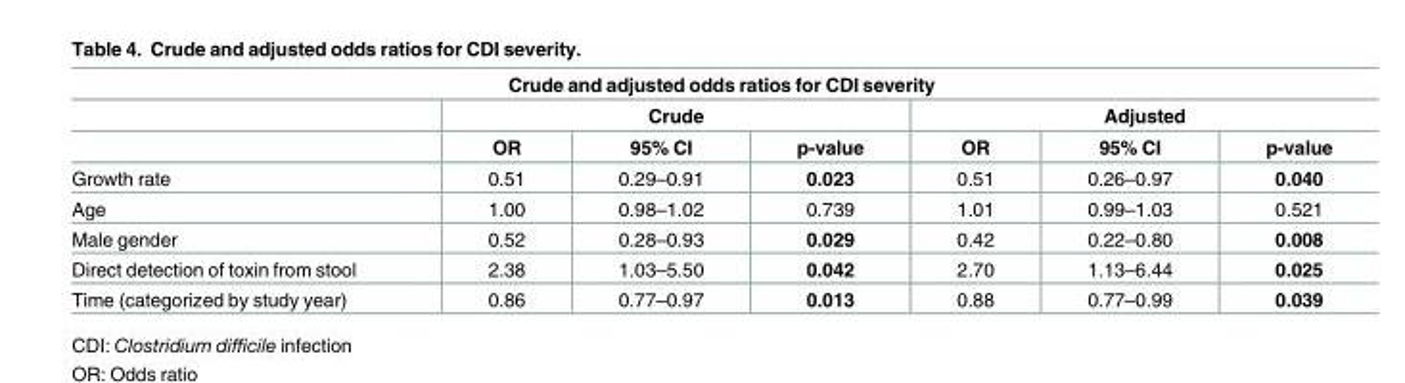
<table><thead><tr><td colspan="7">Crude and adjusted odds ratios for CDI severity</td></tr><tr><td rowspan="2"></td><td colspan="3">Crude</td><td colspan="3">Adjusted</td></tr><tr><td>OR</td><td>95% CI</td><td>p-value</td><td>OR</td><td>95% CI</td><td>p-value</td></tr></thead><tbody><tr><td>Growth rate</td><td>0.51</td><td>0.29–0.91</td><td>0.023</td><td>0.51</td><td>0.26–0.97</td><td>0.040</td></tr><tr><td>Age</td><td>1.00</td><td>0.98–1.02</td><td>0.739</td><td>1.01</td><td>0.99–1.03</td><td>0.521</td></tr><tr><td>Male gender</td><td>0.52</td><td>0.28–0.93</td><td>0.029</td><td>0.42</td><td>0.22–0.80</td><td>0.008</td></tr><tr><td>Direct detection of toxin from stool</td><td>2.38</td><td>1.03–5.50</td><td>0.042</td><td>2.70</td><td>1.13–6.44</td><td>0.025</td></tr><tr><td>Time (categorized by study year)</td><td>0.86</td><td>0.77–0.97</td><td>0.013</td><td>0.88</td><td>0.77–0.99</td><td>0.039</td></tr></tbody></table>